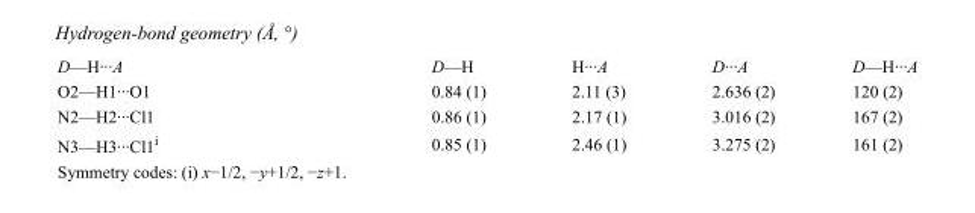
<table><tbody><tr><td>D—H···A</td><td>D—H</td><td>H···A</td><td>D···A</td><td>D—H···A</td></tr><tr><td>O2—H1···O1</td><td>0.84 (1)</td><td>2.11 (3)</td><td>2.636 (2)</td><td>120 (2)</td></tr><tr><td>N2—H2···Cl1</td><td>0.86 (1)</td><td>2.17 (1)</td><td>3.016 (2)</td><td>167 (2)</td></tr><tr><td>N3—H3···Cl1<sup>i</sup></td><td>0.85 (1)</td><td>2.46 (1)</td><td>3.275 (2)</td><td>161 (2)</td></tr></tbody></table>